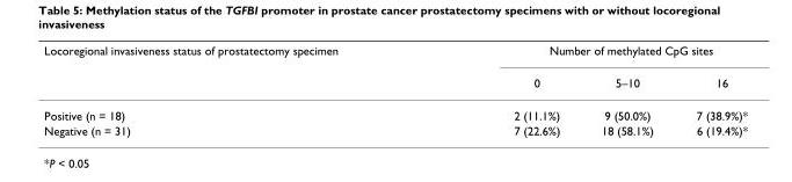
<table><thead><tr><td rowspan="2">Locoregional invasiveness status of prostatectomy specimen</td><td colspan="3">Number of methylated CpG sites</td></tr><tr><td>0</td><td>5–10</td><td>16</td></tr></thead><tbody><tr><td>Positive (n = 18)</td><td>2 (11.1%)</td><td>9 (50.0%)</td><td>7 (38.9%)*</td></tr><tr><td>Negative (n = 31)</td><td>7 (22.6%)</td><td>18 (58.1%)</td><td>6 (19.4%)*</td></tr></tbody></table>